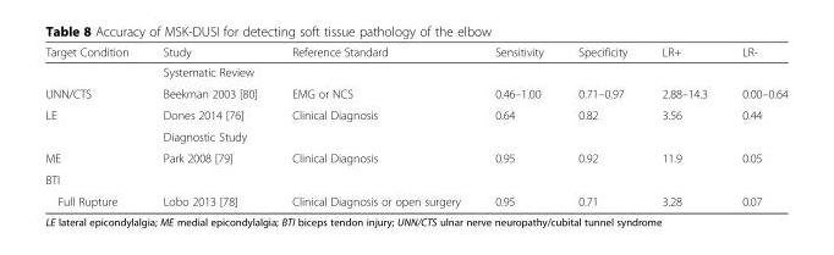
<table><thead><tr><td>Target Condition</td><td>Study</td><td>Reference Standard</td><td>Sensitivity</td><td>Specificity</td><td>LR+</td><td>LR-</td></tr></thead><tbody><tr><td></td><td>Systematic Review</td><td></td><td></td><td></td><td></td><td></td></tr><tr><td>UNN/CTS</td><td>Beekman 2003 [80]</td><td>EMG or NCS</td><td>0.46–1.00</td><td>0.71–0.97</td><td>2.88–14.3</td><td>0.00–0.64</td></tr><tr><td rowspan="2">LE</td><td>Dones 2014 [76]</td><td>Clinical Diagnosis</td><td>0.64</td><td>0.82</td><td>3.56</td><td>0.44</td></tr><tr><td>Diagnostic Study</td><td></td><td></td><td></td><td></td><td></td></tr><tr><td>ME</td><td>Park 2008 [79]</td><td>Clinical Diagnosis</td><td>0.95</td><td>0.92</td><td>11.9</td><td>0.05</td></tr><tr><td colspan="7">BTI</td></tr><tr><td>Full Rupture</td><td>Lobo 2013 [78]</td><td>Clinical Diagnosis or open surgery</td><td>0.95</td><td>0.71</td><td>3.28</td><td>0.07</td></tr></tbody></table>